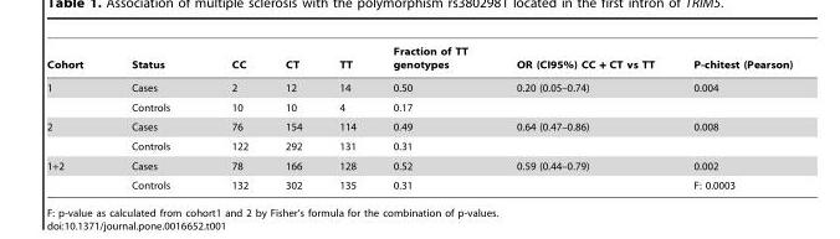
<table><thead><tr><td>Cohort</td><td>Status</td><td>CC</td><td>CT</td><td>TT</td><td>Fraction of TT genotypes</td><td>OR (CI95%) CC + CT vs TT</td><td>P-chitest (Pearson)</td></tr></thead><tbody><tr><td rowspan="2">1</td><td>Cases</td><td>2</td><td>12</td><td>14</td><td>0.50</td><td>0.20 (0.05–0.74)</td><td>0.004</td></tr><tr><td>Controls</td><td>10</td><td>10</td><td>4</td><td>0.17</td><td></td><td></td></tr><tr><td rowspan="2">2</td><td>Cases</td><td>76</td><td>154</td><td>114</td><td>0.49</td><td>0.64 (0.47–0.86)</td><td>0.008</td></tr><tr><td>Controls</td><td>122</td><td>292</td><td>131</td><td>0.31</td><td></td><td></td></tr><tr><td rowspan="2">1+2</td><td>Cases</td><td>78</td><td>166</td><td>128</td><td>0.52</td><td>0.59 (0.44–0.79)</td><td>0.002</td></tr><tr><td>Controls</td><td>132</td><td>302</td><td>135</td><td>0.31</td><td></td><td>F: 0.0003</td></tr></tbody></table>